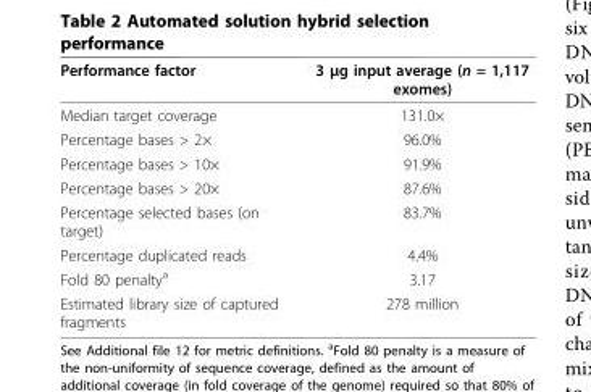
<table><thead><tr><td>Performance factor</td><td>3 μg input average (n = 1,117 exomes)</td></tr></thead><tbody><tr><td>Median target coverage</td><td>131.0×</td></tr><tr><td>Percentage bases &gt; 2×</td><td>96.0%</td></tr><tr><td>Percentage bases &gt; 10×</td><td>91.9%</td></tr><tr><td>Percentage bases &gt; 20×</td><td>87.6%</td></tr><tr><td>Percentage selected bases (on target)</td><td>83.7%</td></tr><tr><td>Percentage duplicated reads</td><td>4.4%</td></tr><tr><td>Fold 80 penalty<sup>a</sup></td><td>3.17</td></tr><tr><td>Estimated library size of captured fragments</td><td>278 million</td></tr></tbody></table>